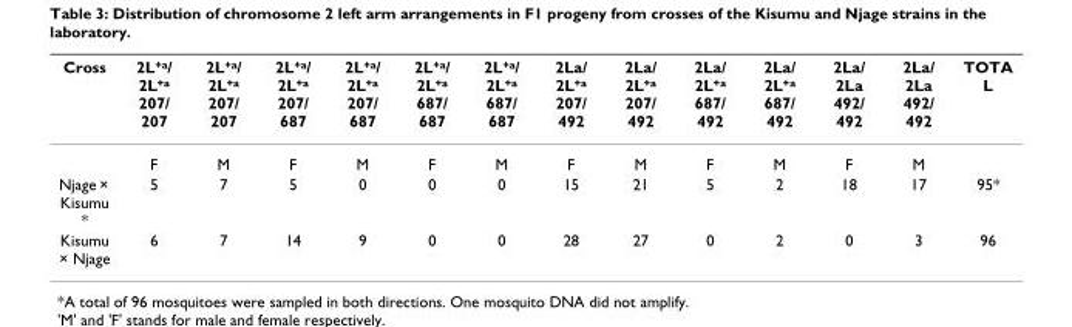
<table><thead><tr><td>Cross</td><td>2L<sup>+a</sup>/ 2L<sup>+a</sup> 207/ 207</td><td>2L<sup>+a</sup>/ 2L<sup>+a</sup> 207/ 207</td><td>2L<sup>+a</sup>/ 2L<sup>+a</sup> 207/ 687</td><td>2L<sup>+a</sup>/ 2L<sup>+a</sup> 207/ 687</td><td>2L<sup>+a</sup>/ 2L<sup>+a</sup> 687/ 687</td><td>2L<sup>+a</sup>/ 2L<sup>+a</sup> 687/ 687</td><td>2La/ 2L<sup>+a</sup> 207/ 492</td><td>2La/ 2L<sup>+a</sup> 207/ 492</td><td>2La/ 2L<sup>+a</sup> 687/ 492</td><td>2La/ 2L<sup>+a</sup> 687/ 492</td><td>2La/ 2La 492/ 492</td><td>2La/ 2La 492/ 492</td><td>TOTA L</td></tr></thead><tbody><tr><td></td><td>F</td><td>M</td><td>F</td><td>M</td><td>F</td><td>M</td><td>F</td><td>M</td><td>F</td><td>M</td><td>F</td><td>M</td><td></td></tr><tr><td>Njage × Kisumu *</td><td>5</td><td>7</td><td>5</td><td>0</td><td>0</td><td>0</td><td>15</td><td>21</td><td>5</td><td>2</td><td>18</td><td>17</td><td>95*</td></tr><tr><td>Kisumu × Njage</td><td>6</td><td>7</td><td>14</td><td>9</td><td>0</td><td>0</td><td>28</td><td>27</td><td>0</td><td>2</td><td>0</td><td>3</td><td>96</td></tr></tbody></table>